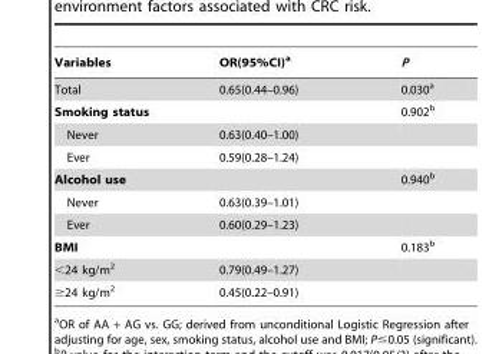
<table><thead><tr><td>Variables</td><td>OR(95%CI)<sup>a</sup></td><td>P</td></tr></thead><tbody><tr><td>Total</td><td>0.65(0.44–0.96)</td><td>0.030<sup>a</sup></td></tr><tr><td>Smoking status</td><td></td><td>0.902<sup>b</sup></td></tr><tr><td>Never</td><td>0.63(0.40–1.00)</td><td></td></tr><tr><td>Ever</td><td>0.59(0.28–1.24)</td><td></td></tr><tr><td>Alcohol use</td><td></td><td>0.940<sup>b</sup></td></tr><tr><td>Never</td><td>0.63(0.39–1.01)</td><td></td></tr><tr><td>Ever</td><td>0.60(0.29–1.23)</td><td></td></tr><tr><td>BMI</td><td></td><td>0.183<sup>b</sup></td></tr><tr><td>&lt;24 kg/m<sup>2</sup></td><td>0.79(0.49–1.27)</td><td></td></tr><tr><td>≥24 kg/m<sup>2</sup></td><td>0.45(0.22–0.91)</td><td></td></tr></tbody></table>